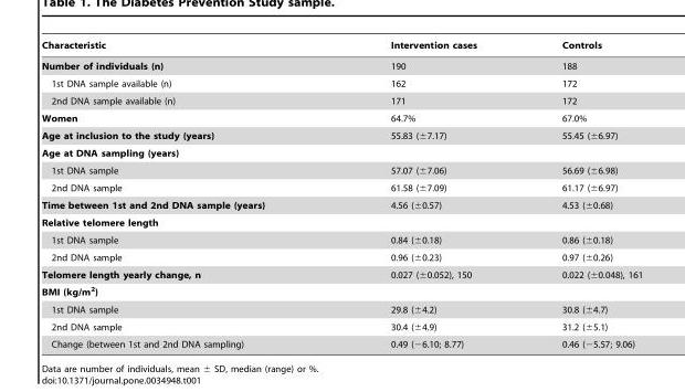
<table><thead><tr><td>Characteristic</td><td>Intervention cases</td><td>Controls</td></tr></thead><tbody><tr><td>Number of individuals (n)</td><td>190</td><td>188</td></tr><tr><td>1st DNA sample available (n)</td><td>162</td><td>172</td></tr><tr><td>2nd DNA sample available (n)</td><td>171</td><td>172</td></tr><tr><td>Women</td><td>64.7%</td><td>67.0%</td></tr><tr><td>Age at inclusion to the study (years)</td><td>55.83 (±7.17)</td><td>55.45 (±6.97)</td></tr><tr><td colspan="3">Age at DNA sampling (years)</td></tr><tr><td>1st DNA sample</td><td>57.07 (±7.06)</td><td>56.69 (±6.98)</td></tr><tr><td>2nd DNA sample</td><td>61.58 (±7.09)</td><td>61.17 (±6.97)</td></tr><tr><td>Time between 1st and 2nd DNA sample (years)</td><td>4.56 (±0.57)</td><td>4.53 (±0.68)</td></tr><tr><td colspan="3">Relative telomere length</td></tr><tr><td>1st DNA sample</td><td>0.84 (±0.18)</td><td>0.86 (±0.18)</td></tr><tr><td>2nd DNA sample</td><td>0.96 (±0.23)</td><td>0.97 (±0.26)</td></tr><tr><td>Telomere length yearly change, n</td><td>0.027 (±0.052), 150</td><td>0.022 (±0.048), 161</td></tr><tr><td colspan="3">BMI (kg/m<sup>2</sup>)</td></tr><tr><td>1st DNA sample</td><td>29.8 (±4.2)</td><td>30.8 (±4.7)</td></tr><tr><td>2nd DNA sample</td><td>30.4 (±4.9)</td><td>31.2 (±5.1)</td></tr><tr><td>Change (between 1st and 2nd DNA sampling)</td><td>0.49 (−6.10; 8.77)</td><td>0.46 (−5.57; 9.06)</td></tr></tbody></table>